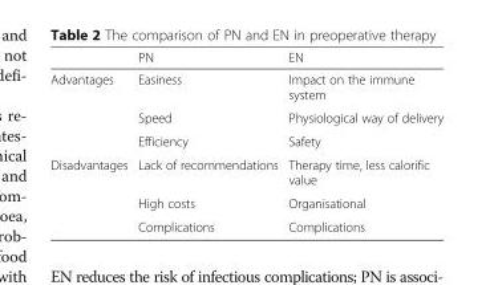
<table><thead><tr><td></td><td>PN</td><td>EN</td></tr></thead><tbody><tr><td rowspan="3">Advantages</td><td>Easiness</td><td>Impact on the immune system</td></tr><tr><td>Speed</td><td>Physiological way of delivery</td></tr><tr><td>Efficiency</td><td>Safety</td></tr><tr><td rowspan="3">Disadvantages</td><td>Lack of recommendations</td><td>Therapy time, less calorific value</td></tr><tr><td>High costs</td><td>Organisational</td></tr><tr><td>Complications</td><td>Complications</td></tr></tbody></table>